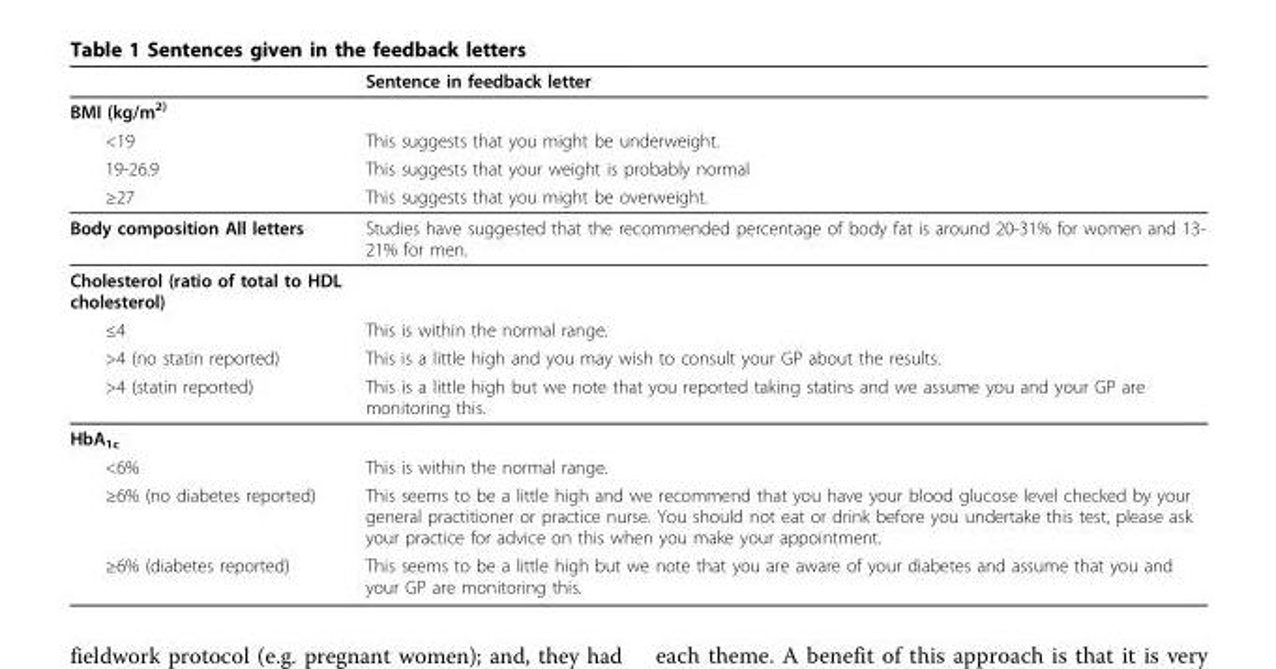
<table><thead><tr><td></td><td>Sentence in feedback letter</td></tr></thead><tbody><tr><td colspan="2">BMI (kg/m<sup>2)</sup></td></tr><tr><td>&lt;19</td><td>This suggests that you might be underweight.</td></tr><tr><td>19-26.9</td><td>This suggests that your weight is probably normal</td></tr><tr><td>≥27</td><td>This suggests that you might be overweight.</td></tr><tr><td>Body composition All letters</td><td>Studies have suggested that the recommended percentage of body fat is around 20-31% for women and 13- 21% for men.</td></tr><tr><td colspan="2">Cholesterol (ratio of total to HDL cholesterol)</td></tr><tr><td>≤4</td><td>This is within the normal range.</td></tr><tr><td>&gt;4 (no statin reported)</td><td>This is a little high and you may wish to consult your GP about the results.</td></tr><tr><td>&gt;4 (statin reported)</td><td>This is a little high but we note that you reported taking statins and we assume you and your GP are monitoring this.</td></tr><tr><td colspan="2">HbA<sub>1c</sub></td></tr><tr><td>&lt;6%</td><td>This is within the normal range.</td></tr><tr><td>≥6% (no diabetes reported)</td><td>This seems to be a little high and we recommend that you have your blood glucose level checked by your general practitioner or practice nurse. You should not eat or drink before you undertake this test, please ask your practice for advice on this when you make your appointment.</td></tr><tr><td>≥6% (diabetes reported)</td><td>This seems to be a little high but we note that you are aware of your diabetes and assume that you and your GP are monitoring this.</td></tr></tbody></table>